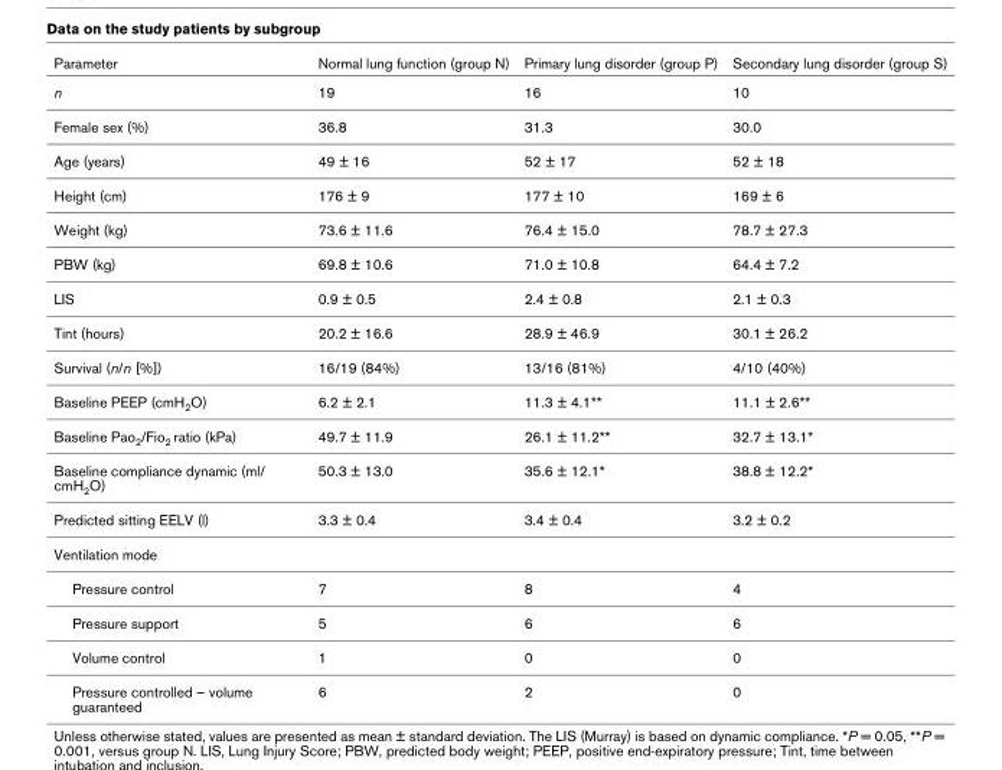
<table><thead><tr><td>Parameter</td><td>Normal lung function (group N)</td><td>Primary lung disorder (group P)</td><td>Secondary lung disorder (group S)</td></tr></thead><tbody><tr><td>n</td><td>19</td><td>16</td><td>10</td></tr><tr><td>Female sex (%)</td><td>36.8</td><td>31.3</td><td>30.0</td></tr><tr><td>Age (years)</td><td>49 ± 16</td><td>52 ± 17</td><td>52 ± 18</td></tr><tr><td>Height (cm)</td><td>176 ± 9</td><td>177 ± 10</td><td>169 ± 6</td></tr><tr><td>Weight (kg)</td><td>73.6 ± 11.6</td><td>76.4 ± 15.0</td><td>78.7 ± 27.3</td></tr><tr><td>PBW (kg)</td><td>69.8 ± 10.6</td><td>71.0 ± 10.8</td><td>64.4 ± 7.2</td></tr><tr><td>LIS</td><td>0.9 ± 0.5</td><td>2.4 ± 0.8</td><td>2.1 ± 0.3</td></tr><tr><td>Tint (hours)</td><td>20.2 ± 16.6</td><td>28.9 ± 46.9</td><td>30.1 ± 26.2</td></tr><tr><td>Survival (n/n [%])</td><td>16/19 (84%)</td><td>13/16 (81%)</td><td>4/10 (40%)</td></tr><tr><td>Baseline PEEP (cmH<sub>2</sub>O)</td><td>6.2 ± 2.1</td><td>11.3 ± 4.1**</td><td>11.1 ± 2.6**</td></tr><tr><td>Baseline Pao<sub>2</sub>/Fio<sub>2</sub> ratio (kPa)</td><td>49.7 ± 11.9</td><td>26.1 ± 11.2**</td><td>32.7 ± 13.1*</td></tr><tr><td>Baseline compliance dynamic (ml/ cmH<sub>2</sub>O)</td><td>50.3 ± 13.0</td><td>35.6 ± 12.1*</td><td>38.8 ± 12.2*</td></tr><tr><td>Predicted sitting EELV (l)</td><td>3.3 ± 0.4</td><td>3.4 ± 0.4</td><td>3.2 ± 0.2</td></tr><tr><td colspan="4">Ventilation mode</td></tr><tr><td>Pressure control</td><td>7</td><td>8</td><td>4</td></tr><tr><td>Pressure support</td><td>5</td><td>6</td><td>6</td></tr><tr><td>Volume control</td><td>1</td><td>0</td><td>0</td></tr><tr><td>Pressure controlled – volume guaranteed</td><td>6</td><td>2</td><td>0</td></tr></tbody></table>